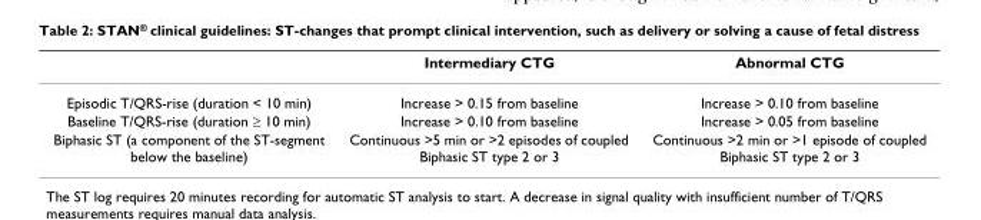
<table><thead><tr><td></td><td>Intermediary CTG</td><td>Abnormal CTG</td></tr></thead><tbody><tr><td>Episodic T/QRS-rise (duration &lt; 10 min)</td><td>Increase &gt; 0.15 from baseline</td><td>Increase &gt; 0.10 from baseline</td></tr><tr><td>Baseline T/QRS-rise (duration ≥ 10 min)</td><td>Increase &gt; 0.10 from baseline</td><td>Increase &gt; 0.05 from baseline</td></tr><tr><td>Biphasic ST (a component of the ST-segment below the baseline)</td><td>Continuous &gt;5 min or &gt;2 episodes of coupled Biphasic ST type 2 or 3</td><td>Continuous &gt;2 min or &gt;1 episode of coupled Biphasic ST type 2 or 3</td></tr></tbody></table>